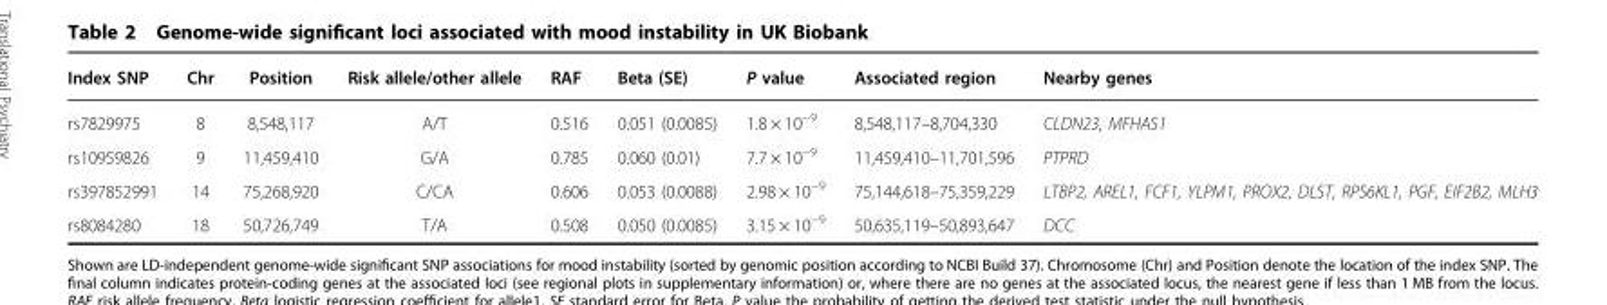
<table><thead><tr><td>Index SNP</td><td>Chr</td><td>Position</td><td>Risk allele/other allele</td><td>RAF</td><td>Beta (SE)</td><td>P value</td><td>Associated region</td><td>Nearby genes</td></tr></thead><tbody><tr><td>rs7829975</td><td>8</td><td>8,548,117</td><td>A/T</td><td>0.516</td><td>0.051 (0.0085)</td><td>1.8 × 10<sup>−9</sup></td><td>8,548,117–8,704,330</td><td>CLDN23, MFHAS1</td></tr><tr><td>rs10959826</td><td>9</td><td>11,459,410</td><td>G/A</td><td>0.785</td><td>0.060 (0.01)</td><td>7.7 × 10<sup>−9</sup></td><td>11,459,410–11,701,596</td><td>PTPRD</td></tr><tr><td>rs397852991</td><td>14</td><td>75,268,920</td><td>C/CA</td><td>0.606</td><td>0.053 (0.0088)</td><td>2.98 × 10<sup>−9</sup></td><td>75,144,618–75,359,229</td><td>LTBP2, AREL1, FCF1, YLPM1, PROX2, DLST, RPS6KL1, PGF, EIF2B2, MLH3</td></tr><tr><td>rs8084280</td><td>18</td><td>50,726,749</td><td>T/A</td><td>0.508</td><td>0.050 (0.0085)</td><td>3.15 × 10<sup>−9</sup></td><td>50,635,119–50,893,647</td><td>DCC</td></tr></tbody></table>